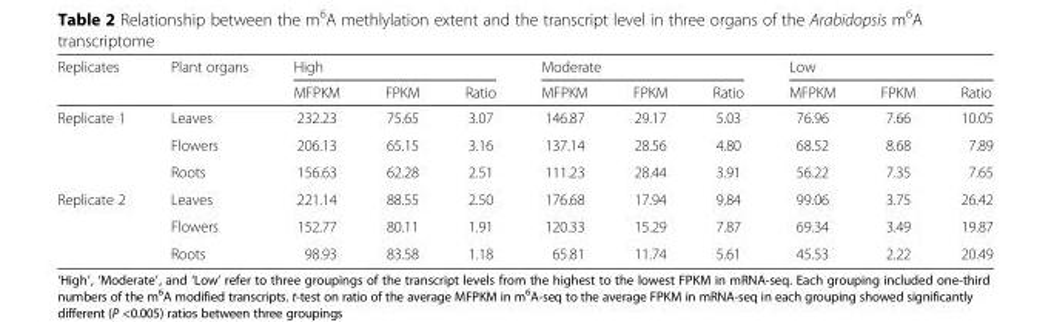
<table><thead><tr><td rowspan="2">Replicates</td><td rowspan="2">Plant organs</td><td colspan="3">High</td><td colspan="3">Moderate</td><td colspan="3">Low</td></tr><tr><td>MFPKM</td><td>FPKM</td><td>Ratio</td><td>MFPKM</td><td>FPKM</td><td>Ratio</td><td>MFPKM</td><td>FPKM</td><td>Ratio</td></tr></thead><tbody><tr><td rowspan="3">Replicate 1</td><td>Leaves</td><td>232.23</td><td>75.65</td><td>3.07</td><td>146.87</td><td>29.17</td><td>5.03</td><td>76.96</td><td>7.66</td><td>10.05</td></tr><tr><td>Flowers</td><td>206.13</td><td>65.15</td><td>3.16</td><td>137.14</td><td>28.56</td><td>4.80</td><td>68.52</td><td>8.68</td><td>7.89</td></tr><tr><td>Roots</td><td>156.63</td><td>62.28</td><td>2.51</td><td>111.23</td><td>28.44</td><td>3.91</td><td>56.22</td><td>7.35</td><td>7.65</td></tr><tr><td rowspan="3">Replicate 2</td><td>Leaves</td><td>221.14</td><td>88.55</td><td>2.50</td><td>176.68</td><td>17.94</td><td>9.84</td><td>99.06</td><td>3.75</td><td>26.42</td></tr><tr><td>Flowers</td><td>152.77</td><td>80.11</td><td>1.91</td><td>120.33</td><td>15.29</td><td>7.87</td><td>69.34</td><td>3.49</td><td>19.87</td></tr><tr><td>Roots</td><td>98.93</td><td>83.58</td><td>1.18</td><td>65.81</td><td>11.74</td><td>5.61</td><td>45.53</td><td>2.22</td><td>20.49</td></tr></tbody></table>